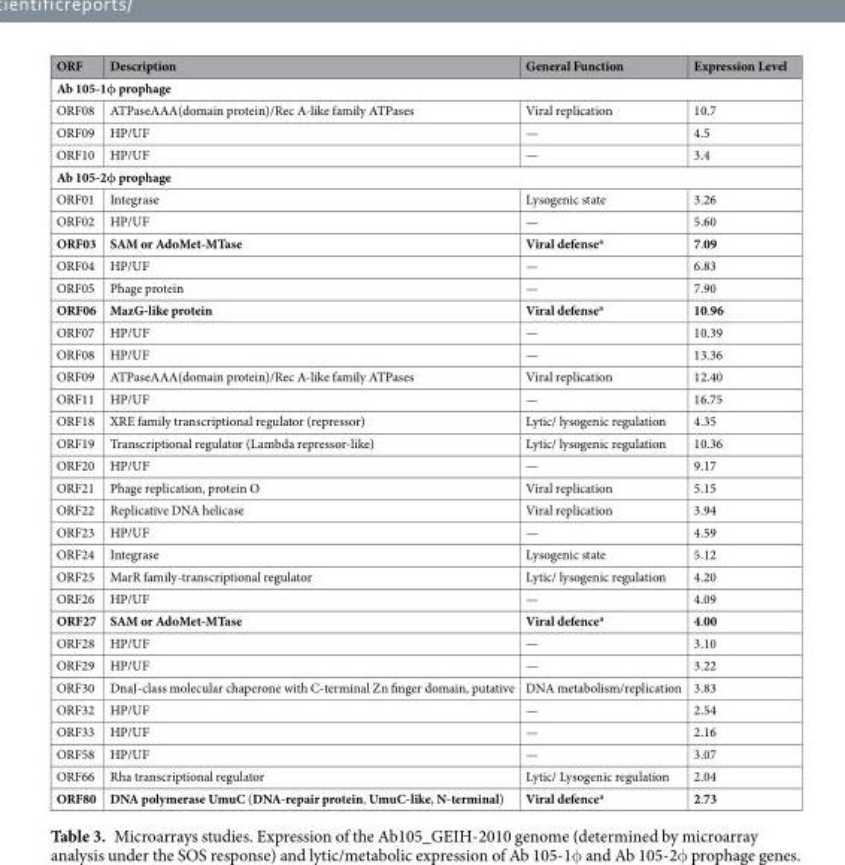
<table><thead><tr><td>ORF</td><td>Description</td><td>General Function</td><td>Expression Level</td></tr></thead><tbody><tr><td colspan="4">Ab 105-1φ prophage</td></tr><tr><td>ORF08</td><td>ATPaseAAA(domain protein)/Rec A-like family ATPases</td><td>Viral replication</td><td>10.7</td></tr><tr><td>ORF09</td><td>HP/UF</td><td>—</td><td>4.5</td></tr><tr><td>ORF10</td><td>HP/UF</td><td>—</td><td>3.4</td></tr><tr><td colspan="4">Ab 105-2φ prophage</td></tr><tr><td>ORF01</td><td>Integrase</td><td>Lysogenic state</td><td>3.26</td></tr><tr><td>ORF02</td><td>HP/UF</td><td>—</td><td>5.60</td></tr><tr><td>ORF03</td><td>SAM or AdoMet-MTase</td><td>Viral defense<sup>a</sup></td><td>7.09</td></tr><tr><td>ORF04</td><td>HP/UF</td><td>—</td><td>6.83</td></tr><tr><td>ORF05</td><td>Phage protein</td><td>—</td><td>7.90</td></tr><tr><td>ORF06</td><td>MazG-like protein</td><td>Viral defense<sup>a</sup></td><td>10.96</td></tr><tr><td>ORF07</td><td>HP/UF</td><td>—</td><td>10.39</td></tr><tr><td>ORF08</td><td>HP/UF</td><td>—</td><td>13.36</td></tr><tr><td>ORF09</td><td>ATPaseAAA(domain protein)/Rec A-like family ATPases</td><td>Viral replication</td><td>12.40</td></tr><tr><td>ORF11</td><td>HP/UF</td><td>—</td><td>16.75</td></tr><tr><td>ORF18</td><td>XRE family transcriptional regulator (repressor)</td><td>Lytic/ lysogenic regulation</td><td>4.35</td></tr><tr><td>ORF19</td><td>Transcriptional regulator (Lambda repressor-like)</td><td>Lytic/ lysogenic regulation</td><td>10.36</td></tr><tr><td>ORF20</td><td>HP/UF</td><td>—</td><td>9.17</td></tr><tr><td>ORF21</td><td>Phage replication, protein O</td><td>Viral replication</td><td>5.15</td></tr><tr><td>ORF22</td><td>Replicative DNA helicase</td><td>Viral replication</td><td>3.94</td></tr><tr><td>ORF23</td><td>HP/UF</td><td>—</td><td>4.59</td></tr><tr><td>ORF24</td><td>Integrase</td><td>Lysogenic state</td><td>5.12</td></tr><tr><td>ORF25</td><td>MarR family-transcriptional regulator</td><td>Lytic/ lysogenic regulation</td><td>4.20</td></tr><tr><td>ORF26</td><td>HP/UF</td><td>—</td><td>4.09</td></tr><tr><td>ORF27</td><td>SAM or AdoMet-MTase</td><td>Viral defence<sup>a</sup></td><td>4.00</td></tr><tr><td>ORF28</td><td>HP/UF</td><td>—</td><td>3.10</td></tr><tr><td>ORF29</td><td>HP/UF</td><td>—</td><td>3.22</td></tr><tr><td>ORF30</td><td>DnaJ-class molecular chaperone with C-terminal Zn finger domain, putative</td><td>DNA metabolism/replication</td><td>3.83</td></tr><tr><td>ORF32</td><td>HP/UF</td><td>—</td><td>2.54</td></tr><tr><td>ORF33</td><td>HP/UF</td><td>—</td><td>2.16</td></tr><tr><td>ORF58</td><td>HP/UF</td><td>—</td><td>3.07</td></tr><tr><td>ORF66</td><td>Rha transcriptional regulator</td><td>Lytic/ Lysogenic regulation</td><td>2.04</td></tr><tr><td>ORF80</td><td>DNA polymerase UmuC (DNA-repair protein, UmuC-like, N-terminal)</td><td>Viral defence<sup>a</sup></td><td>2.73</td></tr></tbody></table>